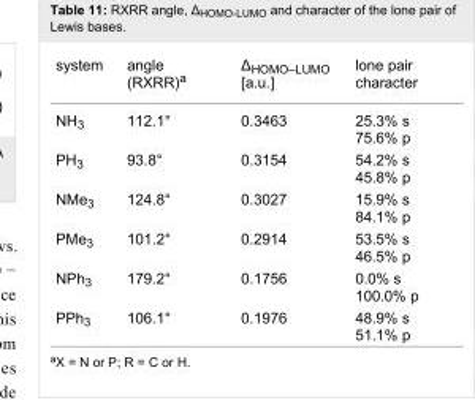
<table><tbody><tr><td>system</td><td>angle (RXRR)<sup>a</sup></td><td>Δ<sub>HOMO–LUMO</sub> [a.u.]</td><td>lone pair character</td></tr><tr><td>NH<sub>3</sub></td><td>112.1°</td><td>0.3463</td><td>25.3% s 75.6% p</td></tr><tr><td>PH<sub>3</sub></td><td>93.8°</td><td>0.3154</td><td>54.2% s 45.8% p</td></tr><tr><td>NMe<sub>3</sub></td><td>124.8°</td><td>0.3027</td><td>15.9% s 84.1% p</td></tr><tr><td>PMe<sub>3</sub></td><td>101.2°</td><td>0.2914</td><td>53.5% s 46.5% p</td></tr><tr><td>NPh<sub>3</sub></td><td>179.2°</td><td>0.1756</td><td>0.0% s 100.0% p</td></tr><tr><td>PPh<sub>3</sub></td><td>106.1°</td><td>0.1976</td><td>48.9% s 51.1% p</td></tr></tbody></table>